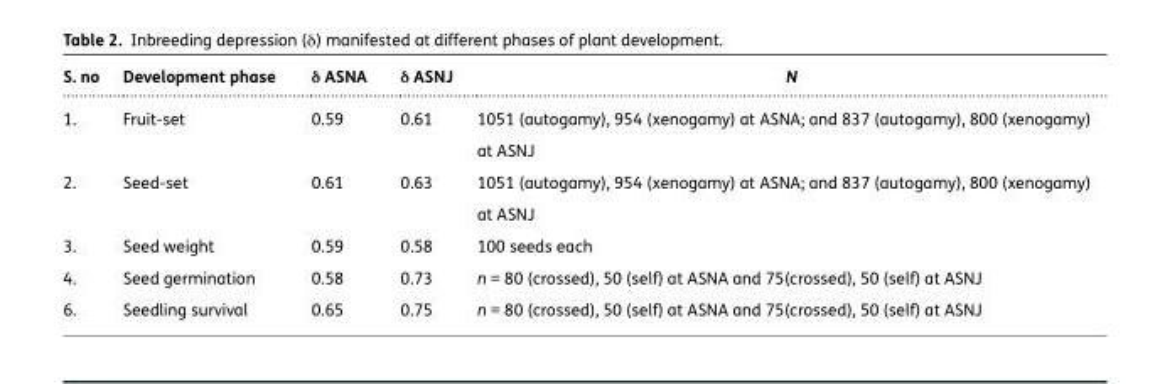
<table><thead><tr><td>S. no</td><td>Development phase</td><td>δ ASNA</td><td>δ ASNJ</td><td>N</td></tr></thead><tbody><tr><td>1.</td><td>Fruit-set</td><td>0.59</td><td>0.61</td><td>1051 (autogamy), 954 (xenogamy) at ASNA; and 837 (autogamy), 800 (xenogamy) at ASNJ</td></tr><tr><td>2.</td><td>Seed-set</td><td>0.61</td><td>0.63</td><td>1051 (autogamy), 954 (xenogamy) at ASNA; and 837 (autogamy), 800 (xenogamy) at ASNJ</td></tr><tr><td>3.</td><td>Seed weight</td><td>0.59</td><td>0.58</td><td>100 seeds each</td></tr><tr><td>4.</td><td>Seed germination</td><td>0.58</td><td>0.73</td><td>n = 80 (crossed), 50 (self) at ASNA and 75(crossed), 50 (self) at ASNJ</td></tr><tr><td>6.</td><td>Seedling survival</td><td>0.65</td><td>0.75</td><td>n = 80 (crossed), 50 (self) at ASNA and 75(crossed), 50 (self) at ASNJ</td></tr></tbody></table>